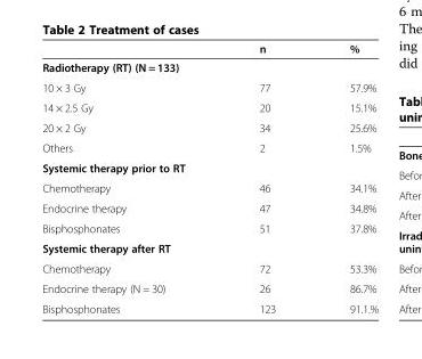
<table><thead><tr><td></td><td>n</td><td>%</td></tr></thead><tbody><tr><td colspan="3">Radiotherapy (RT) (N = 133)</td></tr><tr><td>10 × 3 Gy</td><td>77</td><td>57.9%</td></tr><tr><td>14 × 2.5 Gy</td><td>20</td><td>15.1%</td></tr><tr><td>20 × 2 Gy</td><td>34</td><td>25.6%</td></tr><tr><td>Others</td><td>2</td><td>1.5%</td></tr><tr><td colspan="3">Systemic therapy prior to RT</td></tr><tr><td>Chemotherapy</td><td>46</td><td>34.1%</td></tr><tr><td>Endocrine therapy</td><td>47</td><td>34.8%</td></tr><tr><td>Bisphosphonates</td><td>51</td><td>37.8%</td></tr><tr><td colspan="3">Systemic therapy after RT</td></tr><tr><td>Chemotherapy</td><td>72</td><td>53.3%</td></tr><tr><td>Endocrine therapy (N = 30)</td><td>26</td><td>86.7%</td></tr><tr><td>Bisphosphonates</td><td>123</td><td>91.1.%</td></tr></tbody></table>